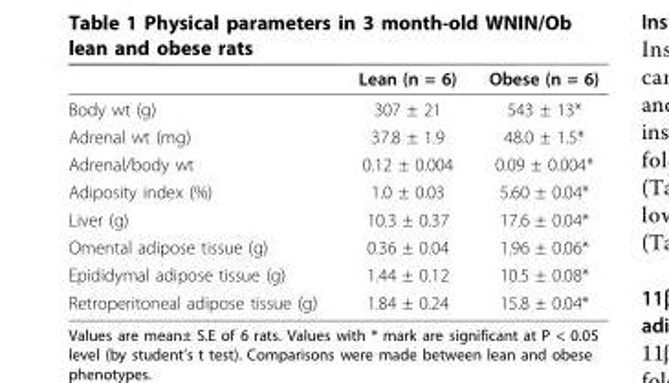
<table><thead><tr><td></td><td>Lean (n = 6)</td><td>Obese (n = 6)</td></tr></thead><tbody><tr><td>Body wt (g)</td><td>307 ± 21</td><td>543 ± 13*</td></tr><tr><td>Adrenal wt (mg)</td><td>37.8 ± 1.9</td><td>48.0 ± 1.5*</td></tr><tr><td>Adrenal/body wt</td><td>0.12 ± 0.004</td><td>0.09 ± 0.004*</td></tr><tr><td>Adiposity index (%)</td><td>1.0 ± 0.03</td><td>5.60 ± 0.04*</td></tr><tr><td>Liver (g)</td><td>10.3 ± 0.37</td><td>17.6 ± 0.04*</td></tr><tr><td>Omental adipose tissue (g)</td><td>0.36 ± 0.04</td><td>1.96 ± 0.06*</td></tr><tr><td>Epididymal adipose tissue (g)</td><td>1.44 ± 0.12</td><td>10.5 ± 0.08*</td></tr><tr><td>Retroperitoneal adipose tissue (g)</td><td>1.84 ± 0.24</td><td>15.8 ± 0.04*</td></tr></tbody></table>